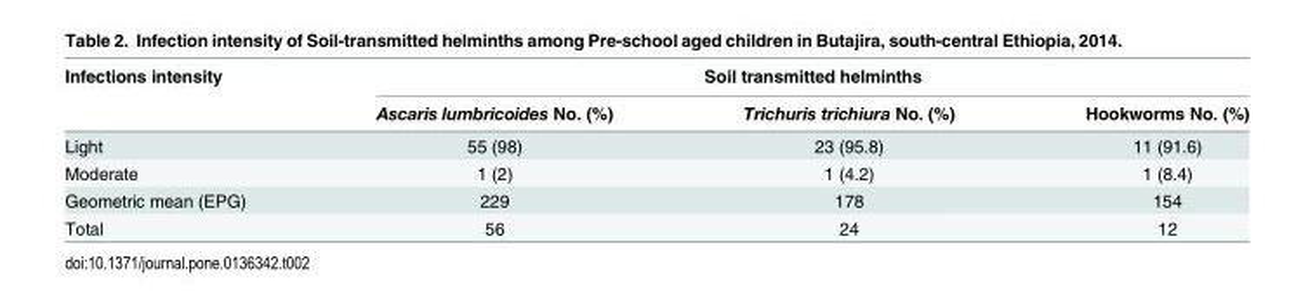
<table><thead><tr><td rowspan="2">Infections intensity</td><td colspan="3">Soil transmitted helminths</td></tr><tr><td>Ascaris lumbricoides No. (%)</td><td>Trichuris trichiura No. (%)</td><td>Hookworms No. (%)</td></tr></thead><tbody><tr><td>Light</td><td>55 (98)</td><td>23 (95.8)</td><td>11 (91.6)</td></tr><tr><td>Moderate</td><td>1 (2)</td><td>1 (4.2)</td><td>1 (8.4)</td></tr><tr><td>Geometric mean (EPG)</td><td>229</td><td>178</td><td>154</td></tr><tr><td>Total</td><td>56</td><td>24</td><td>12</td></tr></tbody></table>